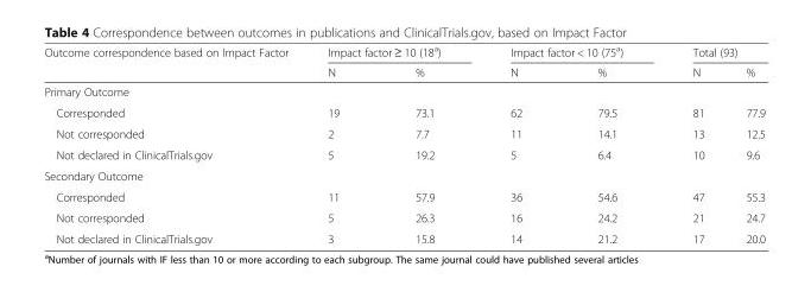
<table><thead><tr><td rowspan="2">Outcome correspondence based on Impact Factor</td><td colspan="2">Impact factor ≥ 10 (18<sup>a</sup>)</td><td colspan="2">Impact factor &lt; 10 (75<sup>a</sup>)</td><td colspan="2">Total (93)</td></tr><tr><td>N</td><td>%</td><td>N</td><td>%</td><td>N</td><td>%</td></tr></thead><tbody><tr><td colspan="7">Primary Outcome</td></tr><tr><td>Corresponded</td><td>19</td><td>73.1</td><td>62</td><td>79.5</td><td>81</td><td>77.9</td></tr><tr><td>Not corresponded</td><td>2</td><td>7.7</td><td>11</td><td>14.1</td><td>13</td><td>12.5</td></tr><tr><td>Not declared in ClinicalTrials.gov</td><td>5</td><td>19.2</td><td>5</td><td>6.4</td><td>10</td><td>9.6</td></tr><tr><td colspan="7">Secondary Outcome</td></tr><tr><td>Corresponded</td><td>11</td><td>57.9</td><td>36</td><td>54.6</td><td>47</td><td>55.3</td></tr><tr><td>Not corresponded</td><td>5</td><td>26.3</td><td>16</td><td>24.2</td><td>21</td><td>24.7</td></tr><tr><td>Not declared in ClinicalTrials.gov</td><td>3</td><td>15.8</td><td>14</td><td>21.2</td><td>17</td><td>20.0</td></tr></tbody></table>